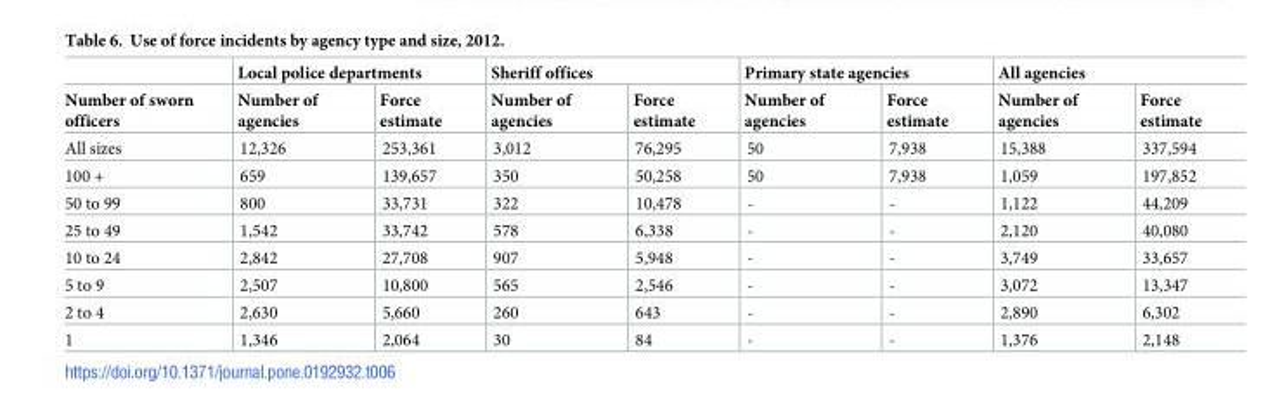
<table><thead><tr><td rowspan="2">Number of sworn officers</td><td colspan="2">Local police departments</td><td colspan="2">Sheriff offices</td><td colspan="2">Primary state agencies</td><td colspan="2">All agencies</td></tr><tr><td>Number of agencies</td><td>Force estimate</td><td>Number of agencies</td><td>Force estimate</td><td>Number of agencies</td><td>Force estimate</td><td>Number of agencies</td><td>Force estimate</td></tr></thead><tbody><tr><td>All sizes</td><td>12,326</td><td>253,361</td><td>3,012</td><td>76,295</td><td>50</td><td>7,938</td><td>15,388</td><td>337,594</td></tr><tr><td>100 +</td><td>659</td><td>139,657</td><td>350</td><td>50,258</td><td>50</td><td>7,938</td><td>1,059</td><td>197,852</td></tr><tr><td>50 to 99</td><td>800</td><td>33,731</td><td>322</td><td>10,478</td><td>-</td><td>-</td><td>1,122</td><td>44,209</td></tr><tr><td>25 to 49</td><td>1,542</td><td>33,742</td><td>578</td><td>6,338</td><td>-</td><td>-</td><td>2,120</td><td>40,080</td></tr><tr><td>10 to 24</td><td>2,842</td><td>27,708</td><td>907</td><td>5,948</td><td>-</td><td>-</td><td>3,749</td><td>33,657</td></tr><tr><td>5 to 9</td><td>2,507</td><td>10,800</td><td>565</td><td>2,546</td><td>-</td><td>-</td><td>3,072</td><td>13,347</td></tr><tr><td>2 to 4</td><td>2,630</td><td>5,660</td><td>260</td><td>643</td><td>-</td><td>-</td><td>2,890</td><td>6,302</td></tr><tr><td>1</td><td>1,346</td><td>2,064</td><td>30</td><td>84</td><td>-</td><td>-</td><td>1,376</td><td>2,148</td></tr></tbody></table>